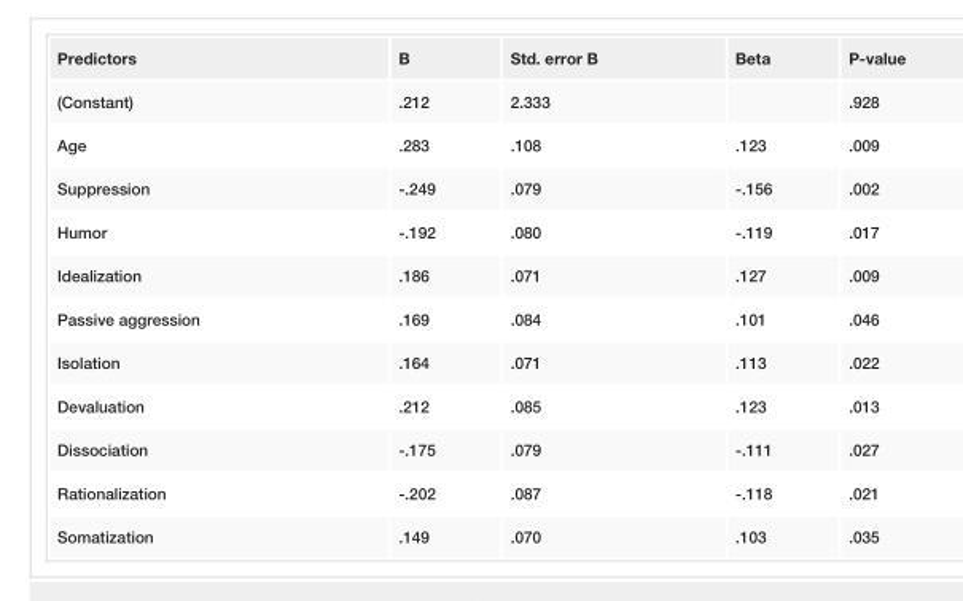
<table><tbody><tr><td>Predictors</td><td>B</td><td>Std. error B</td><td>Beta</td><td>P-value</td></tr><tr><td>(Constant)</td><td>.212</td><td>2.333</td><td></td><td>.928</td></tr><tr><td>Age</td><td>.283</td><td>.108</td><td>.123</td><td>.009</td></tr><tr><td>Suppression</td><td>-.249</td><td>.079</td><td>-.156</td><td>.002</td></tr><tr><td>Humor</td><td>-.192</td><td>.080</td><td>-.119</td><td>.017</td></tr><tr><td>Idealization</td><td>.186</td><td>.071</td><td>.127</td><td>.009</td></tr><tr><td>Passive aggression</td><td>.169</td><td>.084</td><td>.101</td><td>.046</td></tr><tr><td>Isolation</td><td>.164</td><td>.071</td><td>.113</td><td>.022</td></tr><tr><td>Devaluation</td><td>.212</td><td>.085</td><td>.123</td><td>.013</td></tr><tr><td>Dissociation</td><td>-.175</td><td>.079</td><td>-.111</td><td>.027</td></tr><tr><td>Rationalization</td><td>-.202</td><td>.087</td><td>-.118</td><td>.021</td></tr><tr><td>Somatization</td><td>.149</td><td>.070</td><td>.103</td><td>.035</td></tr></tbody></table>